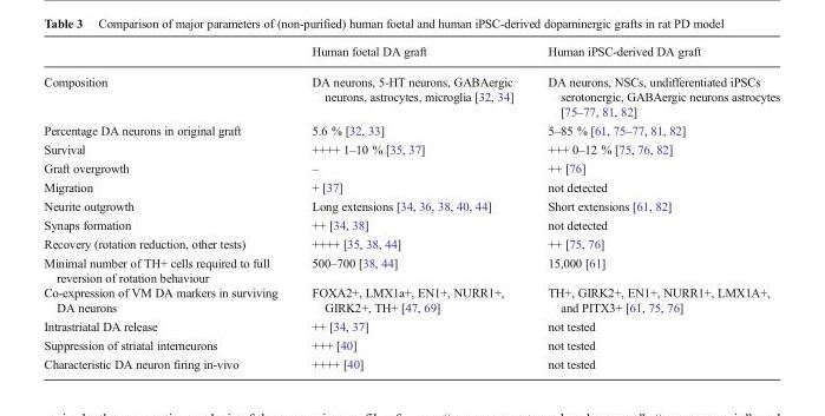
<table><thead><tr><td></td><td>Human foetal DA graft</td><td>Human iPSC-derived DA graft</td></tr></thead><tbody><tr><td>Composition</td><td>DA neurons, 5-HT neurons, GABAergic neurons, astrocytes, microglia [32, 34]</td><td>DA neurons, NSCs, undifferentiated iPSCs serotonergic, GABAergic neurons astrocytes [75–77, 81, 82]</td></tr><tr><td>Percentage DA neurons in original graft</td><td>5.6 % [32, 33]</td><td>5–85 % [61, 75–77, 81, 82]</td></tr><tr><td>Survival</td><td>++++ 1–10 % [35, 37]</td><td>+++ 0–12 % [75, 76, 82]</td></tr><tr><td>Graft overgrowth</td><td>–</td><td>++ [76]</td></tr><tr><td>Migration</td><td>+ [37]</td><td>not detected</td></tr><tr><td>Neurite outgrowth</td><td>Long extensions [34, 36, 38, 40, 44]</td><td>Short extensions [61, 82]</td></tr><tr><td>Synaps formation</td><td>++ [34, 38]</td><td>not detected</td></tr><tr><td>Recovery (rotation reduction, other tests)</td><td>++++ [35, 38, 44]</td><td>++ [75, 76]</td></tr><tr><td>Minimal number of TH+ cells required to full reversion of rotation behaviour</td><td>500–700 [38, 44]</td><td>15,000 [61]</td></tr><tr><td>Co-expression of VM DA markers in surviving DA neurons</td><td>FOXA2+, LMX1a+, EN1+, NURR1+, GIRK2+, TH+ [47, 69]</td><td>TH+, GIRK2+, EN1+, NURR1+, LMX1A+, and PITX3+ [61, 75, 76]</td></tr><tr><td>Intrastriatal DA release</td><td>++ [34, 37]</td><td>not tested</td></tr><tr><td>Suppression of striatal interneurons</td><td>+++ [40]</td><td>not tested</td></tr><tr><td>Characteristic DA neuron firing in-vivo</td><td>++++ [40]</td><td>not tested</td></tr></tbody></table>